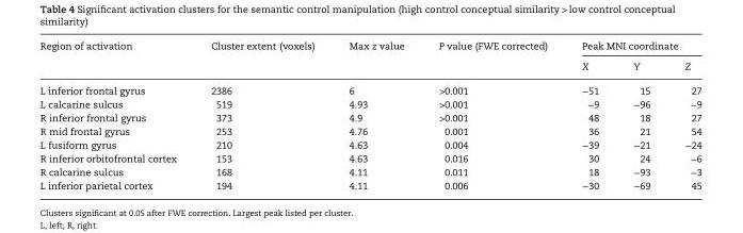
<table><thead><tr><td rowspan="2">Region of activation</td><td rowspan="2">Cluster extent (voxels)</td><td rowspan="2">Max z value</td><td rowspan="2">P value (FWE corrected)</td><td colspan="3">Peak MNI coordinate</td></tr><tr><td>X</td><td>Y</td><td>Z</td></tr></thead><tbody><tr><td>L inferior frontal gyrus</td><td>2386</td><td>6</td><td>&gt;0.001</td><td>−51</td><td>15</td><td>27</td></tr><tr><td>L calcarine sulcus</td><td>519</td><td>4.93</td><td>&gt;0.001</td><td>−9</td><td>−96</td><td>−9</td></tr><tr><td>R inferior frontal gyrus</td><td>373</td><td>4.9</td><td>&gt;0.001</td><td>48</td><td>18</td><td>27</td></tr><tr><td>R mid frontal gyrus</td><td>253</td><td>4.76</td><td>0.001</td><td>36</td><td>21</td><td>54</td></tr><tr><td>L fusiform gyrus</td><td>210</td><td>4.63</td><td>0.004</td><td>−39</td><td>−21</td><td>−24</td></tr><tr><td>R inferior orbitofrontal cortex</td><td>153</td><td>4.63</td><td>0.016</td><td>30</td><td>24</td><td>−6</td></tr><tr><td>R calcarine sulcus</td><td>168</td><td>4.11</td><td>0.011</td><td>18</td><td>−93</td><td>−3</td></tr><tr><td>L inferior parietal cortex</td><td>194</td><td>4.11</td><td>0.006</td><td>−30</td><td>−69</td><td>45</td></tr></tbody></table>